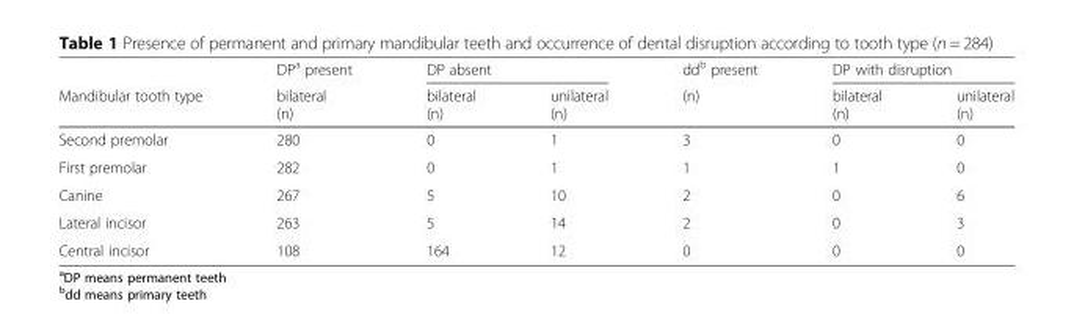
<table><thead><tr><td rowspan="2">Mandibular tooth type</td><td rowspan="2">DP<sup>a</sup> present bilateral (n)</td><td colspan="2">DP absent</td><td rowspan="2">dd<sup>b</sup> present (n)</td><td colspan="2">DP with disruption</td></tr><tr><td>bilateral (n)</td><td>unilateral (n)</td><td>bilateral (n)</td><td>unilateral (n)</td></tr></thead><tbody><tr><td>Second premolar</td><td>280</td><td>0</td><td>1</td><td>3</td><td>0</td><td>0</td></tr><tr><td>First premolar</td><td>282</td><td>0</td><td>1</td><td>1</td><td>1</td><td>0</td></tr><tr><td>Canine</td><td>267</td><td>5</td><td>10</td><td>2</td><td>0</td><td>6</td></tr><tr><td>Lateral incisor</td><td>263</td><td>5</td><td>14</td><td>2</td><td>0</td><td>3</td></tr><tr><td>Central incisor</td><td>108</td><td>164</td><td>12</td><td>0</td><td>0</td><td>0</td></tr></tbody></table>